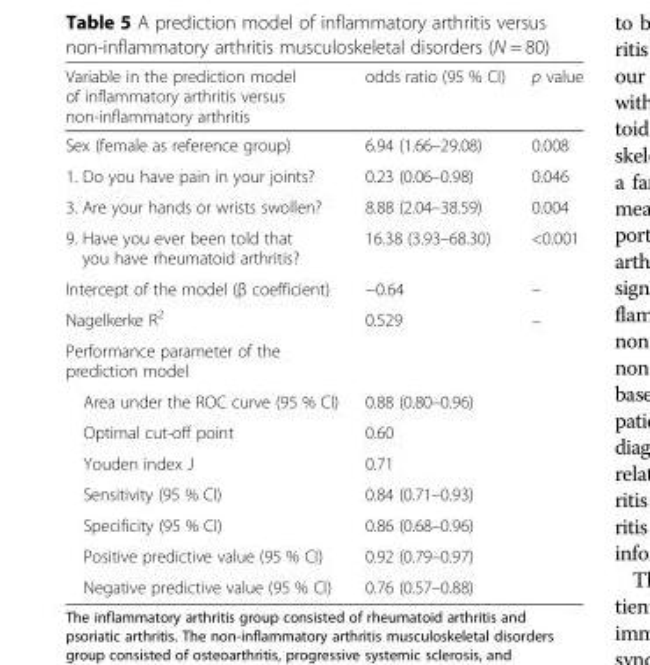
<table><thead><tr><td>Variable in the prediction model of inflammatory arthritis versus non-inflammatory arthritis</td><td>odds ratio (95 % CI)</td><td>p value</td></tr></thead><tbody><tr><td>Sex (female as reference group)</td><td>6.94 (1.66–29.08)</td><td>0.008</td></tr><tr><td>1. Do you have pain in your joints?</td><td>0.23 (0.06–0.98)</td><td>0.046</td></tr><tr><td>3. Are your hands or wrists swollen?</td><td>8.88 (2.04–38.59)</td><td>0.004</td></tr><tr><td>9. Have you ever been told that you have rheumatoid arthritis?</td><td>16.38 (3.93–68.30)</td><td>&lt;0.001</td></tr><tr><td>Intercept of the model (β coefficient)</td><td>−0.64</td><td>–</td></tr><tr><td>Nagelkerke R<sup>2</sup></td><td>0.529</td><td>–</td></tr><tr><td colspan="3">Performance parameter of the prediction model</td></tr><tr><td>Area under the ROC curve (95 % CI)</td><td colspan="2">0.88 (0.80–0.96)</td></tr><tr><td>Optimal cut-off point</td><td colspan="2">0.60</td></tr><tr><td>Youden index J</td><td colspan="2">0.71</td></tr><tr><td>Sensitivity (95 % CI)</td><td colspan="2">0.84 (0.71–0.93)</td></tr><tr><td>Specificity (95 % CI)</td><td colspan="2">0.86 (0.68–0.96)</td></tr><tr><td>Positive predictive value (95 % CI)</td><td colspan="2">0.92 (0.79–0.97)</td></tr><tr><td>Negative predictive value (95 % CI)</td><td colspan="2">0.76 (0.57–0.88)</td></tr></tbody></table>